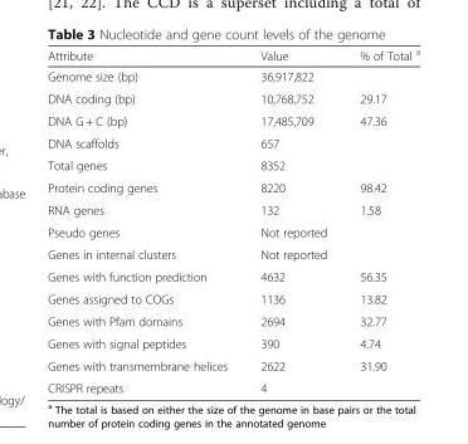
<table><thead><tr><td>Attribute</td><td>Value</td><td>% of Total <sup>a</sup></td></tr></thead><tbody><tr><td>Genome size (bp)</td><td>36,917,822</td><td></td></tr><tr><td>DNA coding (bp)</td><td>10,768,752</td><td>29.17</td></tr><tr><td>DNA G + C (bp)</td><td>17,485,709</td><td>47.36</td></tr><tr><td>DNA scaffolds</td><td>657</td><td></td></tr><tr><td>Total genes</td><td>8352</td><td></td></tr><tr><td>Protein coding genes</td><td>8220</td><td>98.42</td></tr><tr><td>RNA genes</td><td>132</td><td>1.58</td></tr><tr><td>Pseudo genes</td><td>Not reported</td><td></td></tr><tr><td>Genes in internal clusters</td><td>Not reported</td><td></td></tr><tr><td>Genes with function prediction</td><td>4632</td><td>56.35</td></tr><tr><td>Genes assigned to COGs</td><td>1136</td><td>13.82</td></tr><tr><td>Genes with Pfam domains</td><td>2694</td><td>32.77</td></tr><tr><td>Genes with signal peptides</td><td>390</td><td>4.74</td></tr><tr><td>Genes with transmembrane helices</td><td>2622</td><td>31.90</td></tr><tr><td>CRISPR repeats</td><td>4</td><td></td></tr></tbody></table>